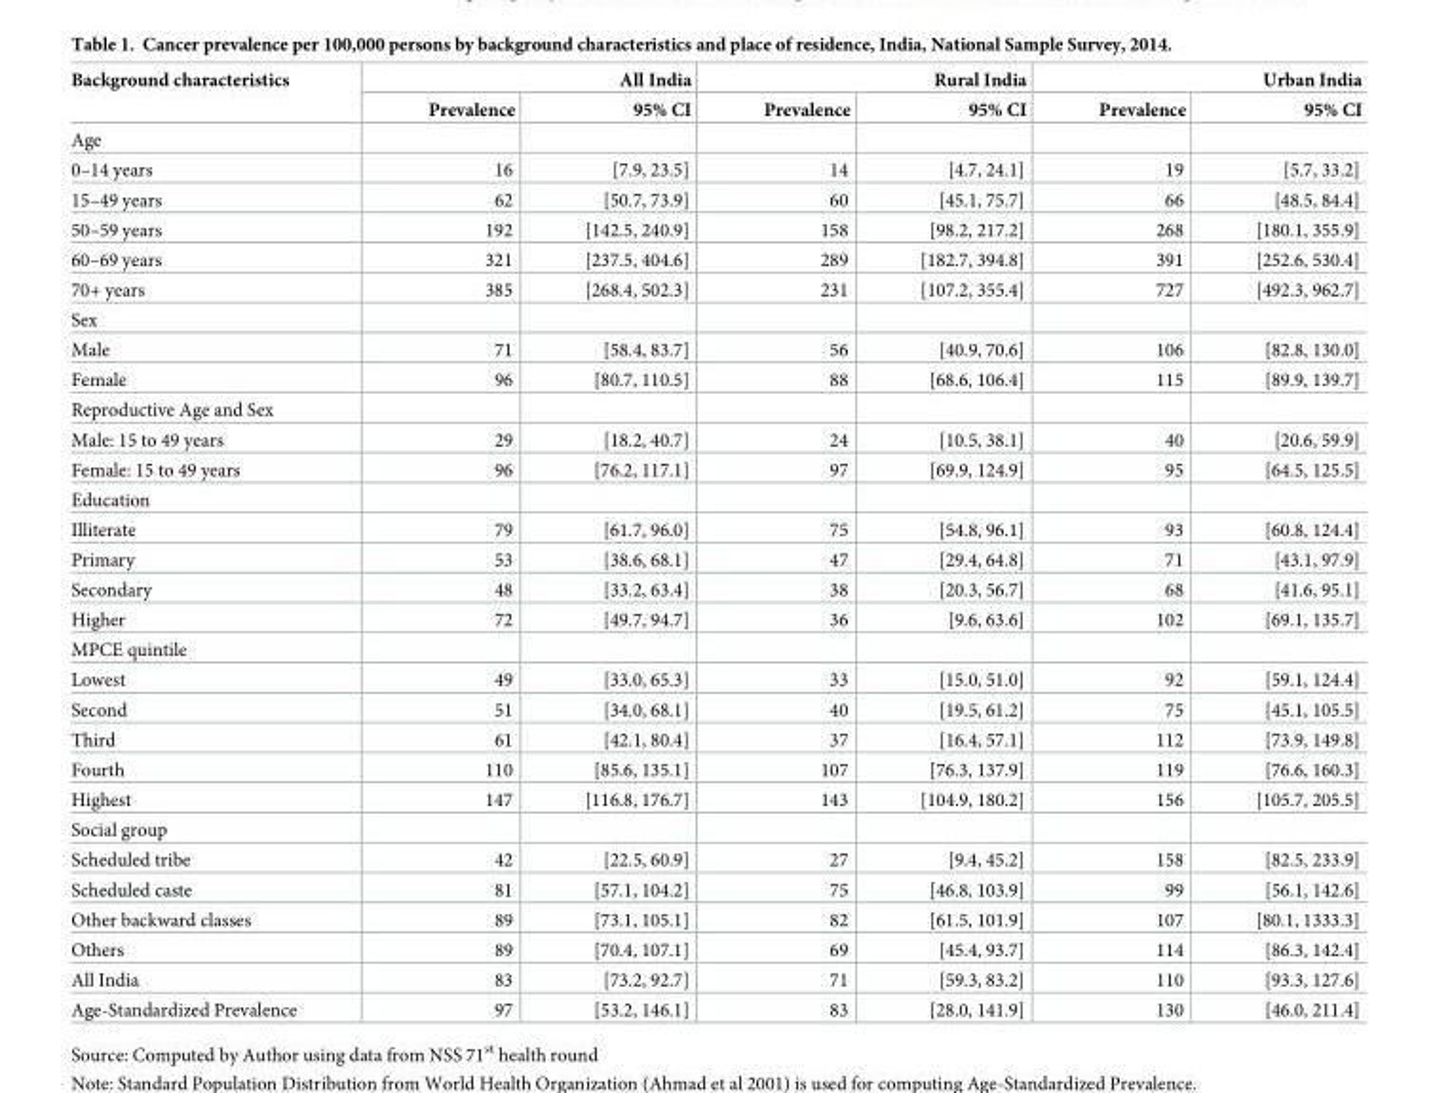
<table><thead><tr><td rowspan="2">Background characteristics</td><td colspan="2">All India</td><td colspan="2">Rural India</td><td colspan="2">Urban India</td></tr><tr><td>Prevalence</td><td>95% CI</td><td>Prevalence</td><td>95% CI</td><td>Prevalence</td><td>95% CI</td></tr></thead><tbody><tr><td colspan="7">Age</td></tr><tr><td>0–14 years</td><td>16</td><td>[7.9, 23.5]</td><td>14</td><td>[4.7, 24.1]</td><td>19</td><td>[5.7, 33.2]</td></tr><tr><td>15–49 years</td><td>62</td><td>[50.7, 73.9]</td><td>60</td><td>[45.1, 75.7]</td><td>66</td><td>[48.5, 84.4]</td></tr><tr><td>50–59 years</td><td>192</td><td>[142.5, 240.9]</td><td>158</td><td>[98.2, 217.2]</td><td>268</td><td>[180.1, 355.9]</td></tr><tr><td>60–69 years</td><td>321</td><td>[237.5, 404.6]</td><td>289</td><td>[182.7, 394.8]</td><td>391</td><td>[252.6, 530.4]</td></tr><tr><td>70+ years</td><td>385</td><td>[268.4, 502.3]</td><td>231</td><td>[107.2, 355.4]</td><td>727</td><td>[492.3, 962.7]</td></tr><tr><td colspan="7">Sex</td></tr><tr><td>Male</td><td>71</td><td>[58.4, 83.7]</td><td>56</td><td>[40.9, 70.6]</td><td>106</td><td>[82.8, 130.0]</td></tr><tr><td>Female</td><td>96</td><td>[80.7, 110.5]</td><td>88</td><td>[68.6, 106.4]</td><td>115</td><td>[89.9, 139.7]</td></tr><tr><td colspan="7">Reproductive Age and Sex</td></tr><tr><td>Male: 15 to 49 years</td><td>29</td><td>[18.2, 40.7]</td><td>24</td><td>[10.5, 38.1]</td><td>40</td><td>[20.6, 59.9]</td></tr><tr><td>Female: 15 to 49 years</td><td>96</td><td>[76.2, 117.1]</td><td>97</td><td>[69.9, 124.9]</td><td>95</td><td>[64.5, 125.5]</td></tr><tr><td colspan="7">Education</td></tr><tr><td>Illiterate</td><td>79</td><td>[61.7, 96.0]</td><td>75</td><td>[54.8, 96.1]</td><td>93</td><td>[60.8, 124.4]</td></tr><tr><td>Primary</td><td>53</td><td>[38.6, 68.1]</td><td>47</td><td>[29.4, 64.8]</td><td>71</td><td>[43.1, 97.9]</td></tr><tr><td>Secondary</td><td>48</td><td>[33.2, 63.4]</td><td>38</td><td>[20.3, 56.7]</td><td>68</td><td>[41.6, 95.1]</td></tr><tr><td>Higher</td><td>72</td><td>[49.7, 94.7]</td><td>36</td><td>[9.6, 63.6]</td><td>102</td><td>[69.1, 135.7]</td></tr><tr><td colspan="7">MPCE quintile</td></tr><tr><td>Lowest</td><td>49</td><td>[33.0, 65.3]</td><td>33</td><td>[15.0, 51.0]</td><td>92</td><td>[59.1, 124.4]</td></tr><tr><td>Second</td><td>51</td><td>[34.0, 68.1]</td><td>40</td><td>[19.5, 61.2]</td><td>75</td><td>[45.1, 105.5]</td></tr><tr><td>Third</td><td>61</td><td>[42.1, 80.4]</td><td>37</td><td>[16.4, 57.1]</td><td>112</td><td>[73.9, 149.8]</td></tr><tr><td>Fourth</td><td>110</td><td>[85.6, 135.1]</td><td>107</td><td>[76.3, 137.9]</td><td>119</td><td>[76.6, 160.3]</td></tr><tr><td>Highest</td><td>147</td><td>[116.8, 176.7]</td><td>143</td><td>[104.9, 180.2]</td><td>156</td><td>[105.7, 205.5]</td></tr><tr><td colspan="7">Social group</td></tr><tr><td>Scheduled tribe</td><td>42</td><td>[22.5, 60.9]</td><td>27</td><td>[9.4, 45.2]</td><td>158</td><td>[82.5, 233.9]</td></tr><tr><td>Scheduled caste</td><td>81</td><td>[57.1, 104.2]</td><td>75</td><td>[46.8, 103.9]</td><td>99</td><td>[56.1, 142.6]</td></tr><tr><td>Other backward classes</td><td>89</td><td>[73.1, 105.1]</td><td>82</td><td>[61.5, 101.9]</td><td>107</td><td>[80.1, 1333.3]</td></tr><tr><td>Others</td><td>89</td><td>[70.4, 107.1]</td><td>69</td><td>[45.4, 93.7]</td><td>114</td><td>[86.3, 142.4]</td></tr><tr><td>All India</td><td>83</td><td>[73.2, 92.7]</td><td>71</td><td>[59.3, 83.2]</td><td>110</td><td>[93.3, 127.6]</td></tr><tr><td>Age-Standardized Prevalence</td><td>97</td><td>[53.2, 146.1]</td><td>83</td><td>[28.0, 141.9]</td><td>130</td><td>[46.0, 211.4]</td></tr></tbody></table>